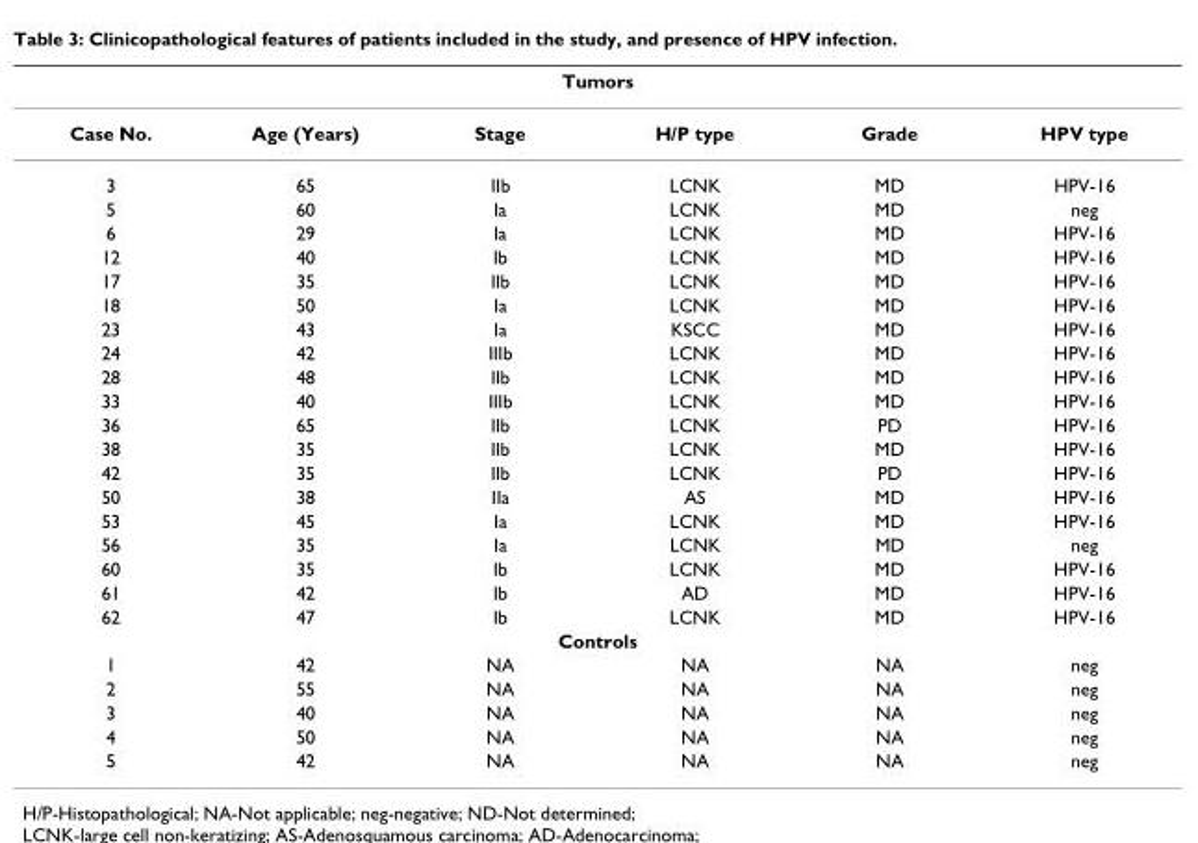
<table><thead><tr><td rowspan="2">Case No.</td><td rowspan="2">Age (Years)</td><td colspan="2">Tumors</td><td rowspan="2">Grade</td><td rowspan="2">HPV type</td></tr><tr><td>Stage</td><td>H/P type</td></tr></thead><tbody><tr><td>3</td><td>65</td><td>IIb</td><td>LCNK</td><td>MD</td><td>HPV-16</td></tr><tr><td>5</td><td>60</td><td>Ia</td><td>LCNK</td><td>MD</td><td>neg</td></tr><tr><td>6</td><td>29</td><td>Ia</td><td>LCNK</td><td>MD</td><td>HPV-16</td></tr><tr><td>12</td><td>40</td><td>Ib</td><td>LCNK</td><td>MD</td><td>HPV-16</td></tr><tr><td>17</td><td>35</td><td>IIb</td><td>LCNK</td><td>MD</td><td>HPV-16</td></tr><tr><td>18</td><td>50</td><td>Ia</td><td>LCNK</td><td>MD</td><td>HPV-16</td></tr><tr><td>23</td><td>43</td><td>Ia</td><td>KSCC</td><td>MD</td><td>HPV-16</td></tr><tr><td>24</td><td>42</td><td>IIIb</td><td>LCNK</td><td>MD</td><td>HPV-16</td></tr><tr><td>28</td><td>48</td><td>IIb</td><td>LCNK</td><td>MD</td><td>HPV-16</td></tr><tr><td>33</td><td>40</td><td>IIIb</td><td>LCNK</td><td>MD</td><td>HPV-16</td></tr><tr><td>36</td><td>65</td><td>IIb</td><td>LCNK</td><td>PD</td><td>HPV-16</td></tr><tr><td>38</td><td>35</td><td>IIb</td><td>LCNK</td><td>MD</td><td>HPV-16</td></tr><tr><td>42</td><td>35</td><td>IIb</td><td>LCNK</td><td>PD</td><td>HPV-16</td></tr><tr><td>50</td><td>38</td><td>IIa</td><td>AS</td><td>MD</td><td>HPV-16</td></tr><tr><td>53</td><td>45</td><td>Ia</td><td>LCNK</td><td>MD</td><td>HPV-16</td></tr><tr><td>56</td><td>35</td><td>Ia</td><td>LCNK</td><td>MD</td><td>neg</td></tr><tr><td>60</td><td>35</td><td>Ib</td><td>LCNK</td><td>MD</td><td>HPV-16</td></tr><tr><td>61</td><td>42</td><td>Ib</td><td>AD</td><td>MD</td><td>HPV-16</td></tr><tr><td rowspan="2">62</td><td>47</td><td>Ib</td><td>LCNK</td><td>MD</td><td>HPV-16</td></tr><tr><td></td><td colspan="2">Controls</td><td></td><td></td></tr><tr><td>1</td><td>42</td><td>NA</td><td>NA</td><td>NA</td><td>neg</td></tr><tr><td>2</td><td>55</td><td>NA</td><td>NA</td><td>NA</td><td>neg</td></tr><tr><td>3</td><td>40</td><td>NA</td><td>NA</td><td>NA</td><td>neg</td></tr><tr><td>4</td><td>50</td><td>NA</td><td>NA</td><td>NA</td><td>neg</td></tr><tr><td>5</td><td>42</td><td>NA</td><td>NA</td><td>NA</td><td>neg</td></tr></tbody></table>